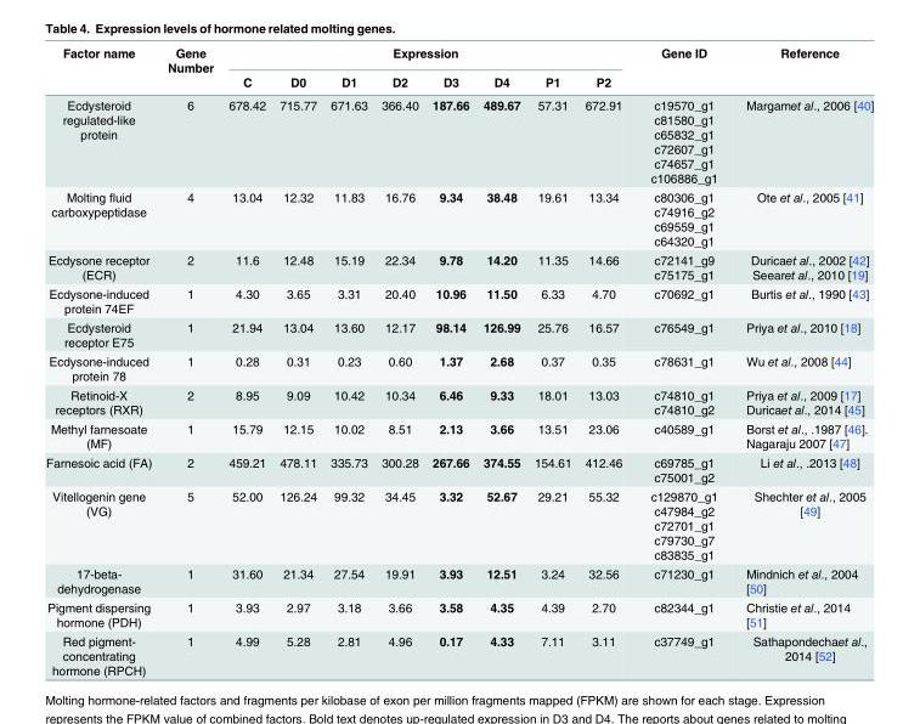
<table><thead><tr><td rowspan="2">Factor name</td><td rowspan="2">Gene Number</td><td colspan="8">Expression</td><td rowspan="2">Gene ID</td><td rowspan="2">Reference</td></tr><tr><td>C</td><td>D0</td><td>D1</td><td>D2</td><td>D3</td><td>D4</td><td>P1</td><td>P2</td></tr></thead><tbody><tr><td>Ecdysteroid regulated-like protein</td><td>6</td><td>678.42</td><td>715.77</td><td>671.63</td><td>366.40</td><td>187.66</td><td>489.67</td><td>57.31</td><td>672.91</td><td>c19570_g1 c81580_g1 c65832_g1 c72607_g1 c74657_g1 c106886_g1</td><td>Margamet al., 2006 [40]</td></tr><tr><td>Molting fluid carboxypeptidase</td><td>4</td><td>13.04</td><td>12.32</td><td>11.83</td><td>16.76</td><td>9.34</td><td>38.48</td><td>19.61</td><td>13.34</td><td>c80306_g1 c74916_g2 c69559_g1 c64320_g1</td><td>Ote et al., 2005 [41]</td></tr><tr><td>Ecdysone receptor (ECR)</td><td>2</td><td>11.6</td><td>12.48</td><td>15.19</td><td>22.34</td><td>9.78</td><td>14.20</td><td>11.35</td><td>14.66</td><td>c72141_g9 c75175_g1</td><td>Duricaet al., 2002 [42] Seearet al., 2010 [19]</td></tr><tr><td>Ecdysone-induced protein 74EF</td><td>1</td><td>4.30</td><td>3.65</td><td>3.31</td><td>20.40</td><td>10.96</td><td>11.50</td><td>6.33</td><td>4.70</td><td>c70692_g1</td><td>Burtis et al., 1990 [43]</td></tr><tr><td>Ecdysteroid receptor E75</td><td>1</td><td>21.94</td><td>13.04</td><td>13.60</td><td>12.17</td><td>98.14</td><td>126.99</td><td>25.76</td><td>16.57</td><td>c76549_g1</td><td>Priya et al., 2010 [18]</td></tr><tr><td>Ecdysone-induced protein 78</td><td>1</td><td>0.28</td><td>0.31</td><td>0.23</td><td>0.60</td><td>1.37</td><td>2.68</td><td>0.37</td><td>0.35</td><td>c78631_g1</td><td>Wu et al., 2008 [44]</td></tr><tr><td>Retinoid-X receptors (RXR)</td><td>2</td><td>8.95</td><td>9.09</td><td>10.42</td><td>10.34</td><td>6.46</td><td>9.33</td><td>18.01</td><td>13.03</td><td>c74810_g1 c74810_g2</td><td>Priya et al., 2009 [17] Duricaet al., 2014 [45]</td></tr><tr><td>Methyl farnesoate (MF)</td><td>1</td><td>15.79</td><td>12.15</td><td>10.02</td><td>8.51</td><td>2.13</td><td>3.66</td><td>13.51</td><td>23.06</td><td>c40589_g1</td><td>Borst et al., .1987 [46]. Nagaraju 2007 [47]</td></tr><tr><td>Farnesoic acid (FA)</td><td>2</td><td>459.21</td><td>478.11</td><td>335.73</td><td>300.28</td><td>267.66</td><td>374.55</td><td>154.61</td><td>412.46</td><td>c69785_g1 c75001_g2</td><td>Li et al., .2013 [48]</td></tr><tr><td>Vitellogenin gene (VG)</td><td>5</td><td>52.00</td><td>126.24</td><td>99.32</td><td>34.45</td><td>3.32</td><td>52.67</td><td>29.21</td><td>55.32</td><td>c129870_g1 c47984_g2 c72701_g1 c79730_g7 c83835_g1</td><td>Shechter et al., 2005 [49]</td></tr><tr><td>17-beta- dehydrogenase</td><td>1</td><td>31.60</td><td>21.34</td><td>27.54</td><td>19.91</td><td>3.93</td><td>12.51</td><td>3.24</td><td>32.56</td><td>c71230_g1</td><td>Mindnich et al., 2004 [50]</td></tr><tr><td>Pigment dispersing hormone (PDH)</td><td>1</td><td>3.93</td><td>2.97</td><td>3.18</td><td>3.66</td><td>3.58</td><td>4.35</td><td>4.39</td><td>2.70</td><td>c82344_g1</td><td>Christie et al., 2014 [51]</td></tr><tr><td>Red pigment- concentrating hormone (RPCH)</td><td>1</td><td>4.99</td><td>5.28</td><td>2.81</td><td>4.96</td><td>0.17</td><td>4.33</td><td>7.11</td><td>3.11</td><td>c37749_g1</td><td>Sathapondechaet al., 2014 [52]</td></tr></tbody></table>